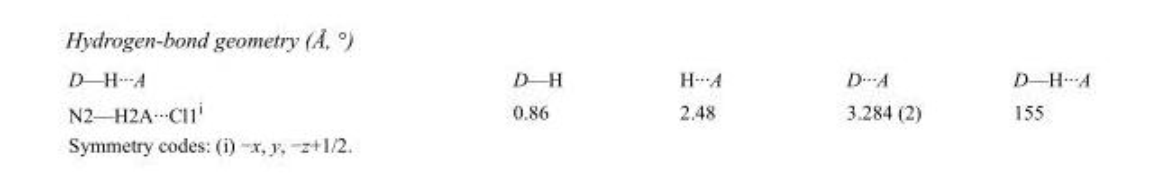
<table><tbody><tr><td>D—H···A</td><td>D—H</td><td>H···A</td><td>D···A</td><td>D—H···A</td></tr><tr><td>N2—H2A···Cl1<sup>i</sup></td><td>0.86</td><td>2.48</td><td>3.284 (2)</td><td>155</td></tr></tbody></table>